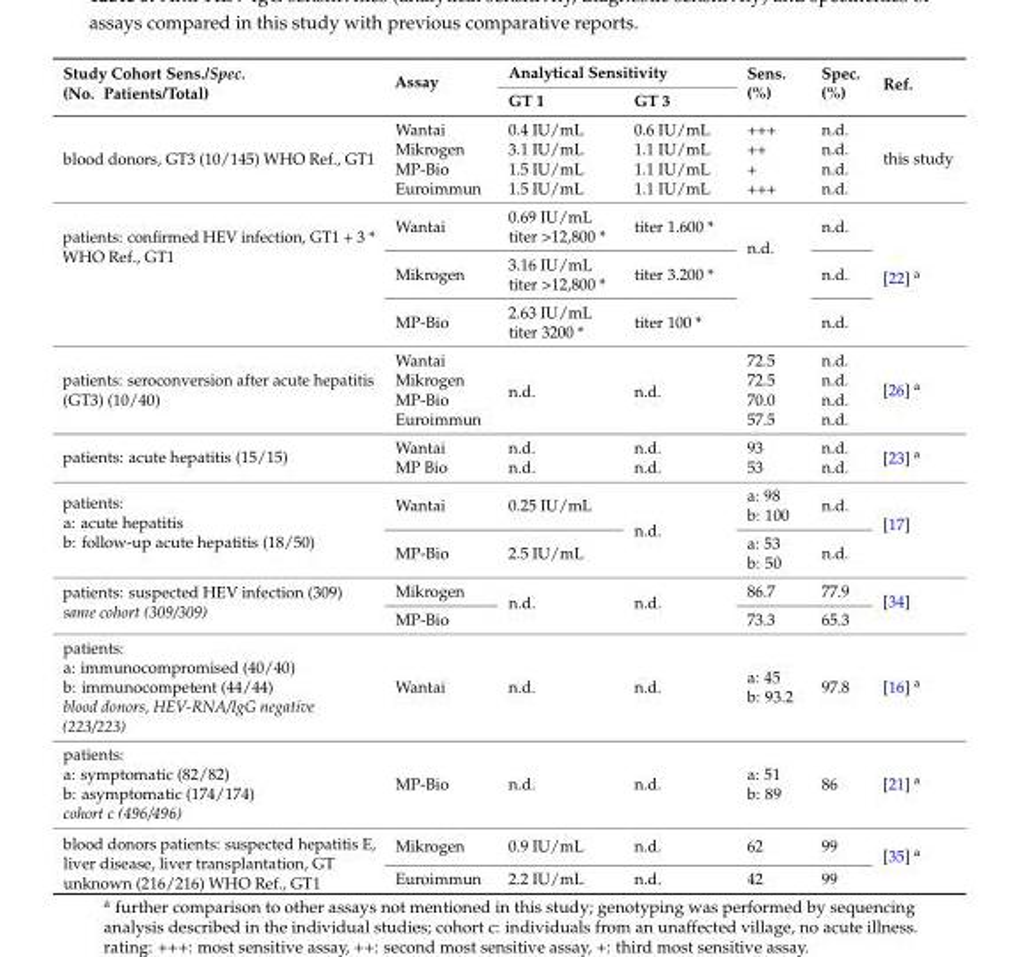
<table><thead><tr><td rowspan="2">Study Cohort Sens./Spec. (No. Patients/Total)</td><td rowspan="2">Assay</td><td colspan="2">Analytical Sensitivity</td><td rowspan="2">Sens. (%)</td><td rowspan="2">Spec. (%)</td><td rowspan="2">Ref.</td></tr><tr><td>GT 1</td><td>GT 3</td></tr></thead><tbody><tr><td rowspan="4">blood donors, GT3 (10/145) WHO Ref., GT1</td><td>Wantai</td><td>0.4 IU/mL</td><td>0.6 IU/mL</td><td>+++</td><td>n.d.</td><td rowspan="4">this study</td></tr><tr><td>Mikrogen</td><td>3.1 IU/mL</td><td>1.1 IU/mL</td><td>++</td><td>n.d.</td></tr><tr><td>MP-Bio</td><td>1.5 IU/mL</td><td>1.1 IU/mL</td><td>+</td><td>n.d.</td></tr><tr><td>Euroimmun</td><td>1.5 IU/mL</td><td>1.1 IU/mL</td><td>+++</td><td>n.d.</td></tr><tr><td rowspan="3">patients: confirmed HEV infection, GT1 + 3 * WHO Ref., GT1</td><td>Wantai</td><td>0.69 IU/mL titer &gt;12,800 *</td><td>titer 1.600 *</td><td rowspan="3">n.d.</td><td>n.d.</td><td rowspan="3">[22] <sup>a</sup></td></tr><tr><td>Mikrogen</td><td>3.16 IU/mL titer &gt;12,800 *</td><td>titer 3.200 *</td><td>n.d.</td></tr><tr><td>MP-Bio</td><td>2.63 IU/mL titer 3200 *</td><td>titer 100 *</td><td>n.d.</td></tr><tr><td rowspan="4">patients: seroconversion after acute hepatitis (GT3) (10/40)</td><td>Wantai</td><td rowspan="4">n.d.</td><td rowspan="4">n.d.</td><td>72.5</td><td>n.d.</td><td rowspan="4">[26] <sup>a</sup></td></tr><tr><td>Mikrogen</td><td>72.5</td><td>n.d.</td></tr><tr><td>MP-Bio</td><td>70.0</td><td>n.d.</td></tr><tr><td>Euroimmun</td><td>57.5</td><td>n.d.</td></tr><tr><td rowspan="2">patients: acute hepatitis (15/15)</td><td>Wantai</td><td>n.d.</td><td>n.d.</td><td>93</td><td>n.d.</td><td rowspan="2">[23] <sup>a</sup></td></tr><tr><td>MP Bio</td><td>n.d.</td><td>n.d.</td><td>53</td><td>n.d.</td></tr><tr><td rowspan="2">patients: a: acute hepatitis b: follow-up acute hepatitis (18/50)</td><td>Wantai</td><td>0.25 IU/mL</td><td rowspan="2">n.d.</td><td>a: 98 b: 100</td><td>n.d.</td><td rowspan="2">[17]</td></tr><tr><td>MP-Bio</td><td>2.5 IU/mL</td><td>a: 53 b: 50</td><td>n.d.</td></tr><tr><td rowspan="2">patients: suspected HEV infection (309) same cohort (309/309)</td><td>Mikrogen</td><td rowspan="2">n.d.</td><td rowspan="2">n.d.</td><td>86.7</td><td>77.9</td><td rowspan="2">[34]</td></tr><tr><td>MP-Bio</td><td>73.3</td><td>65.3</td></tr><tr><td>patients: a: immunocompromised (40/40) b: immunocompetent (44/44) blood donors, HEV-RNA/IgG negative (223/223)</td><td>Wantai</td><td>n.d.</td><td>n.d.</td><td>a: 45 b: 93.2</td><td>97.8</td><td>[16] <sup>a</sup></td></tr><tr><td>patients: a: symptomatic (82/82) b: asymptomatic (174/174) cohort c (496/496)</td><td>MP-Bio</td><td>n.d.</td><td>n.d.</td><td>a: 51 b: 89</td><td>86</td><td>[21] <sup>a</sup></td></tr><tr><td rowspan="2">blood donors patients: suspected hepatitis E, liver disease, liver transplantation, GT unknown (216/216) WHO Ref., GT1</td><td>Mikrogen</td><td>0.9 IU/mL</td><td>n.d.</td><td>62</td><td>99</td><td rowspan="2">[35] <sup>a</sup></td></tr><tr><td>Euroimmun</td><td>2.2 IU/mL</td><td>n.d.</td><td>42</td><td>99</td></tr></tbody></table>